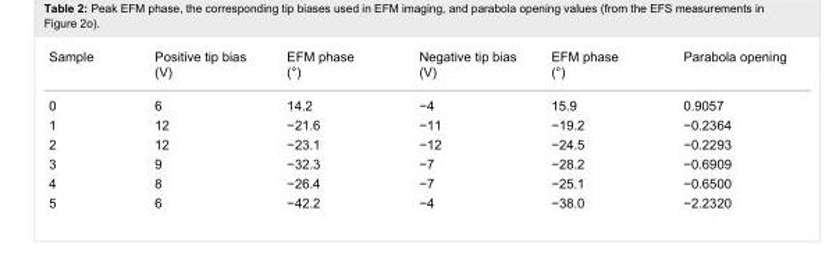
<table><tbody><tr><td>Sample</td><td>Positive tip bias (V)</td><td>EFM phase (°)</td><td>Negative tip bias (V)</td><td>EFM phase (°)</td><td>Parabola opening</td></tr><tr><td>0</td><td>6</td><td>14.2</td><td>−4</td><td>15.9</td><td>0.9057</td></tr><tr><td>1</td><td>12</td><td>−21.6</td><td>−11</td><td>−19.2</td><td>−0.2364</td></tr><tr><td>2</td><td>12</td><td>−23.1</td><td>−12</td><td>−24.5</td><td>−0.2293</td></tr><tr><td>3</td><td>9</td><td>−32.3</td><td>−7</td><td>−28.2</td><td>−0.6909</td></tr><tr><td>4</td><td>8</td><td>−26.4</td><td>−7</td><td>−25.1</td><td>−0.6500</td></tr><tr><td>5</td><td>6</td><td>−42.2</td><td>−4</td><td>−38.0</td><td>−2.2320</td></tr></tbody></table>